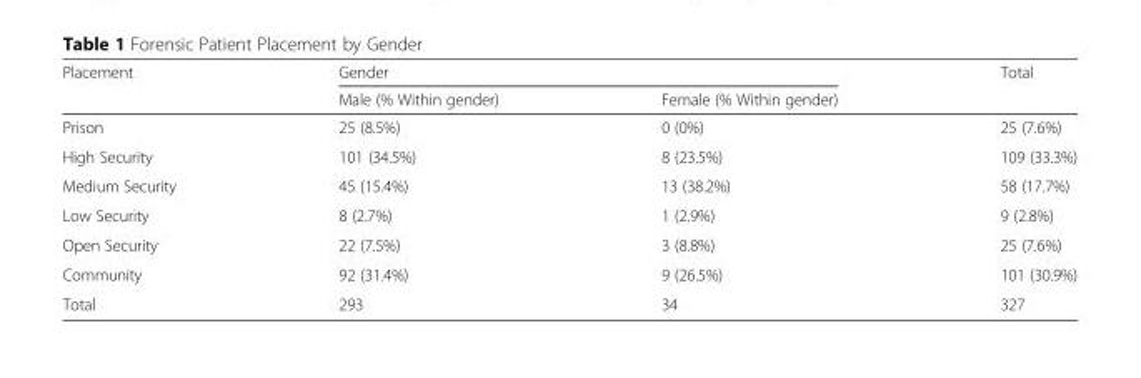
<table><thead><tr><td rowspan="2">Placement</td><td colspan="2">Gender</td><td rowspan="2">Total</td></tr><tr><td>Male (% Within gender)</td><td>Female (% Within gender)</td></tr></thead><tbody><tr><td>Prison</td><td>25 (8.5%)</td><td>0 (0%)</td><td>25 (7.6%)</td></tr><tr><td>High Security</td><td>101 (34.5%)</td><td>8 (23.5%)</td><td>109 (33.3%)</td></tr><tr><td>Medium Security</td><td>45 (15.4%)</td><td>13 (38.2%)</td><td>58 (17.7%)</td></tr><tr><td>Low Security</td><td>8 (2.7%)</td><td>1 (2.9%)</td><td>9 (2.8%)</td></tr><tr><td>Open Security</td><td>22 (7.5%)</td><td>3 (8.8%)</td><td>25 (7.6%)</td></tr><tr><td>Community</td><td>92 (31.4%)</td><td>9 (26.5%)</td><td>101 (30.9%)</td></tr><tr><td>Total</td><td>293</td><td>34</td><td>327</td></tr></tbody></table>